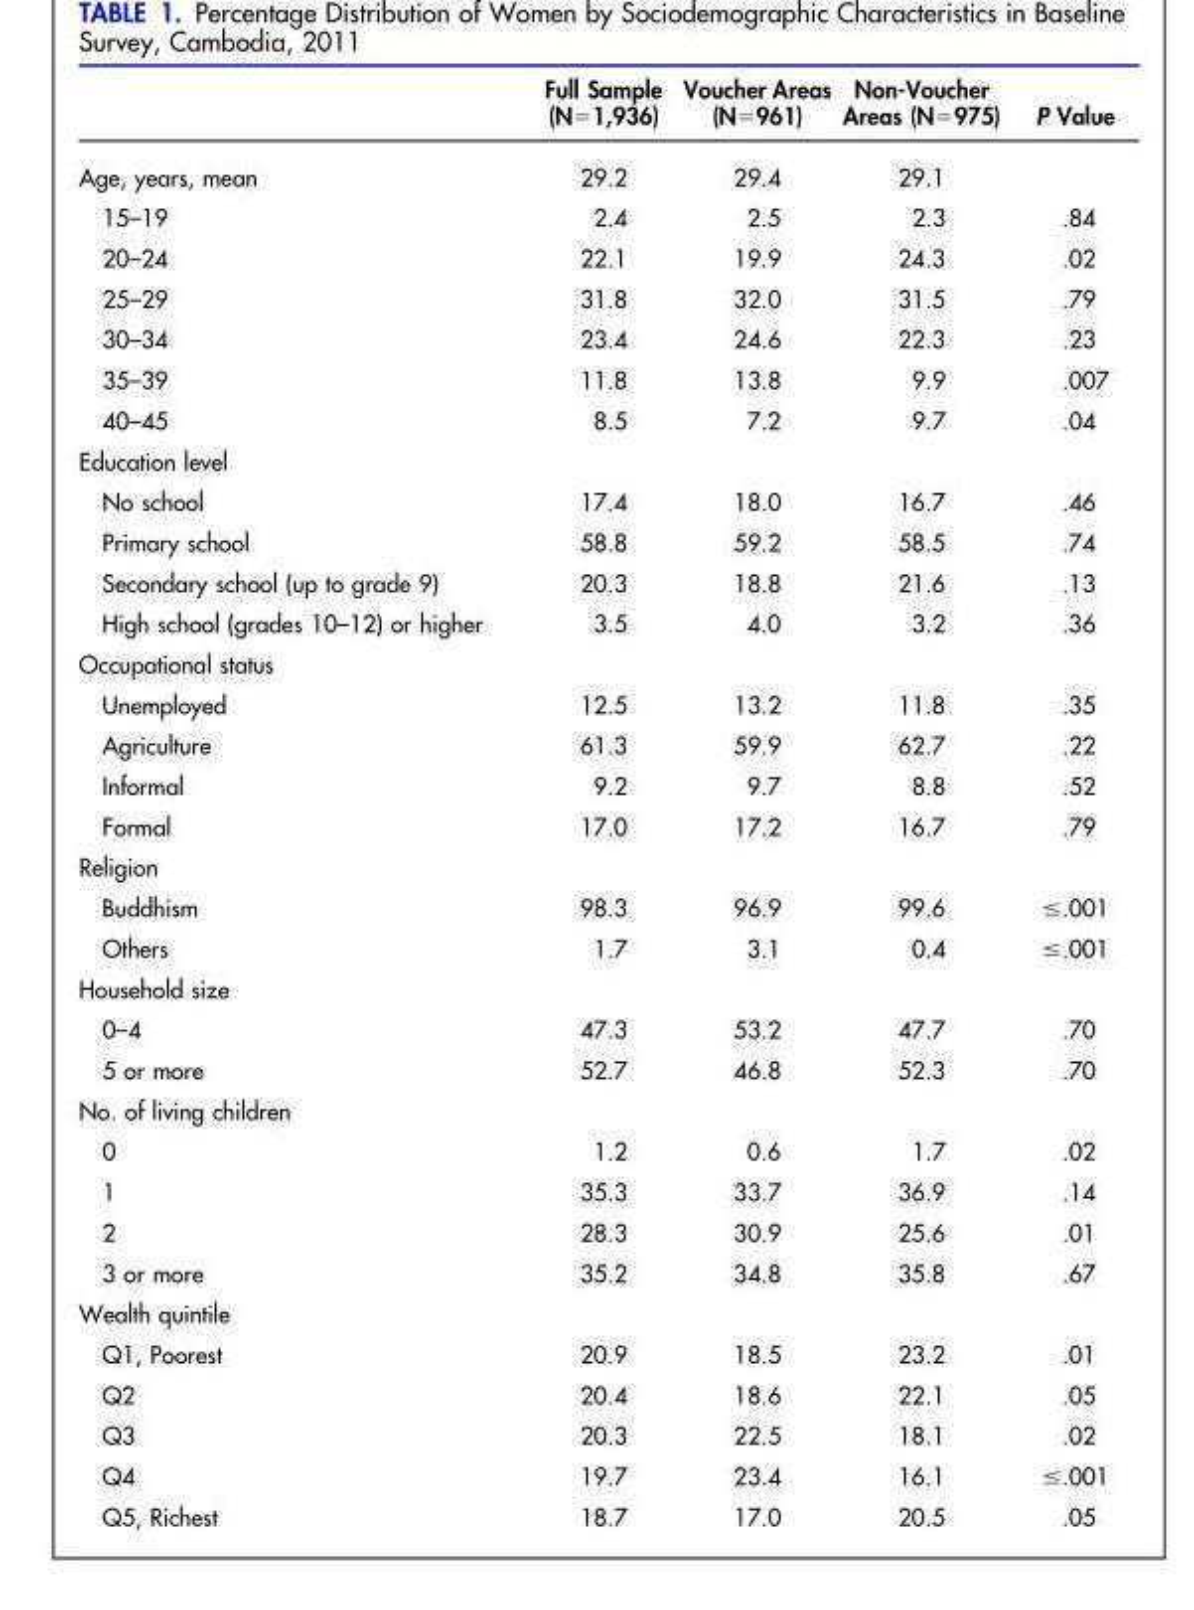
<table><thead><tr><td></td><td>Full Sample (N=1,936)</td><td>Voucher Areas (N=961)</td><td>Non-Voucher Areas (N=975)</td><td>P Value</td></tr></thead><tbody><tr><td>Age, years, mean</td><td>29.2</td><td>29.4</td><td>29.1</td><td></td></tr><tr><td>15–19</td><td>2.4</td><td>2.5</td><td>2.3</td><td>.84</td></tr><tr><td>20–24</td><td>22.1</td><td>19.9</td><td>24.3</td><td>.02</td></tr><tr><td>25–29</td><td>31.8</td><td>32.0</td><td>31.5</td><td>.79</td></tr><tr><td>30–34</td><td>23.4</td><td>24.6</td><td>22.3</td><td>.23</td></tr><tr><td>35–39</td><td>11.8</td><td>13.8</td><td>9.9</td><td>.007</td></tr><tr><td>40–45</td><td>8.5</td><td>7.2</td><td>9.7</td><td>.04</td></tr><tr><td colspan="5">Education level</td></tr><tr><td>No school</td><td>17.4</td><td>18.0</td><td>16.7</td><td>.46</td></tr><tr><td>Primary school</td><td>58.8</td><td>59.2</td><td>58.5</td><td>.74</td></tr><tr><td>Secondary school (up to grade 9)</td><td>20.3</td><td>18.8</td><td>21.6</td><td>.13</td></tr><tr><td>High school (grades 10–12) or higher</td><td>3.5</td><td>4.0</td><td>3.2</td><td>.36</td></tr><tr><td colspan="5">Occupational status</td></tr><tr><td>Unemployed</td><td>12.5</td><td>13.2</td><td>11.8</td><td>.35</td></tr><tr><td>Agriculture</td><td>61.3</td><td>59.9</td><td>62.7</td><td>.22</td></tr><tr><td>Informal</td><td>9.2</td><td>9.7</td><td>8.8</td><td>.52</td></tr><tr><td>Formal</td><td>17.0</td><td>17.2</td><td>16.7</td><td>.79</td></tr><tr><td colspan="5">Religion</td></tr><tr><td>Buddhism</td><td>98.3</td><td>96.9</td><td>99.6</td><td>≤.001</td></tr><tr><td>Others</td><td>1.7</td><td>3.1</td><td>0.4</td><td>≤.001</td></tr><tr><td colspan="5">Household size</td></tr><tr><td>0–4</td><td>47.3</td><td>53.2</td><td>47.7</td><td>.70</td></tr><tr><td>5 or more</td><td>52.7</td><td>46.8</td><td>52.3</td><td>.70</td></tr><tr><td colspan="5">No. of living children</td></tr><tr><td>0</td><td>1.2</td><td>0.6</td><td>1.7</td><td>.02</td></tr><tr><td>1</td><td>35.3</td><td>33.7</td><td>36.9</td><td>.14</td></tr><tr><td>2</td><td>28.3</td><td>30.9</td><td>25.6</td><td>.01</td></tr><tr><td>3 or more</td><td>35.2</td><td>34.8</td><td>35.8</td><td>.67</td></tr><tr><td colspan="5">Wealth quintile</td></tr><tr><td>Q1, Poorest</td><td>20.9</td><td>18.5</td><td>23.2</td><td>.01</td></tr><tr><td>Q2</td><td>20.4</td><td>18.6</td><td>22.1</td><td>.05</td></tr><tr><td>Q3</td><td>20.3</td><td>22.5</td><td>18.1</td><td>.02</td></tr><tr><td>Q4</td><td>19.7</td><td>23.4</td><td>16.1</td><td>≤.001</td></tr><tr><td>Q5, Richest</td><td>18.7</td><td>17.0</td><td>20.5</td><td>.05</td></tr></tbody></table>